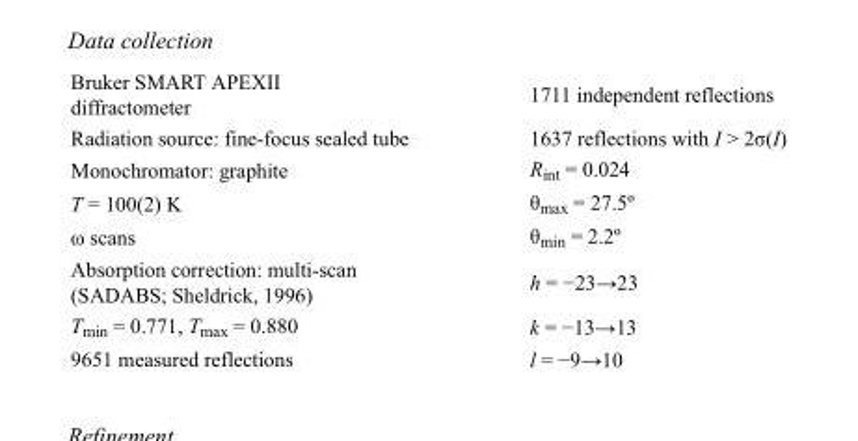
<table><tbody><tr><td>Bruker SMART APEXII diffractometer</td><td>1711 independent reflections</td></tr><tr><td>Radiation source: fine-focus sealed tube</td><td>1637 reflections with I &gt; 2σ(I)</td></tr><tr><td>Monochromator: graphite</td><td>R<sub>int</sub> = 0.024</td></tr><tr><td>T = 100(2) K</td><td>θ<sub>max</sub> = 27.5º</td></tr><tr><td>ω scans</td><td>θ<sub>min</sub> = 2.2º</td></tr><tr><td>Absorption correction: multi-scan (SADABS; Sheldrick, 1996)</td><td>h = −23→23</td></tr><tr><td>T<sub>min</sub> = 0.771, T<sub>max</sub> = 0.880</td><td>k = −13→13</td></tr><tr><td>9651 measured reflections</td><td>l = −9→10</td></tr></tbody></table>